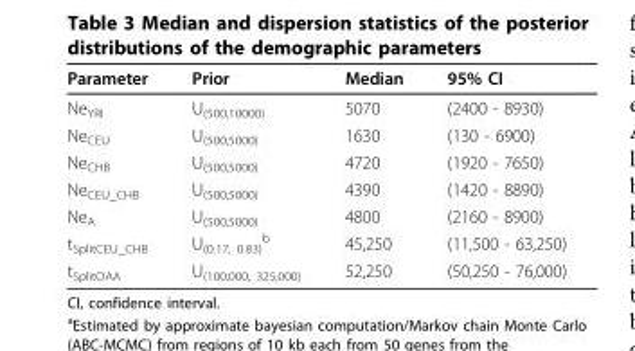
<table><thead><tr><td>Parameter</td><td>Prior</td><td>Median</td><td>95% CI</td></tr></thead><tbody><tr><td>Ne<sub>YRI</sub></td><td>U<sub>(500,10000)</sub></td><td>5070</td><td>(2400 - 8930)</td></tr><tr><td>Ne<sub>CEU</sub></td><td>U<sub>(500,5000)</sub></td><td>1630</td><td>(130 - 6900)</td></tr><tr><td>Ne<sub>CHB</sub></td><td>U<sub>(500,5000)</sub></td><td>4720</td><td>(1920 - 7650)</td></tr><tr><td>Ne<sub>CEU_CHB</sub></td><td>U<sub>(500,5000)</sub></td><td>4390</td><td>(1420 - 8890)</td></tr><tr><td>Ne<sub>A</sub></td><td>U<sub>(500,5000)</sub></td><td>4800</td><td>(2160 - 8900)</td></tr><tr><td>t<sub>SplitCEU_CHB</sub></td><td>U<sub>(0.17, 0.83)</sub> <sup>b</sup></td><td>45,250</td><td>(11,500 - 63,250)</td></tr><tr><td>t<sub>SplitOAA</sub></td><td>U<sub>(100,000, 325,000)</sub></td><td>52,250</td><td>(50,250 - 76,000)</td></tr></tbody></table>